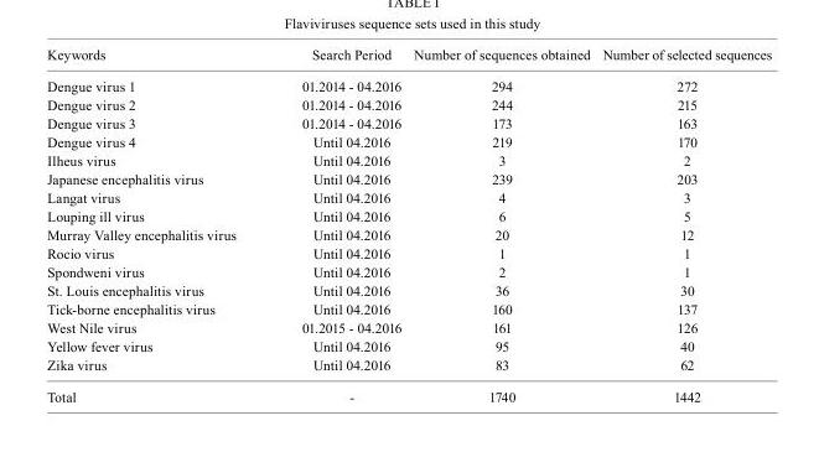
<table><thead><tr><td>Keywords</td><td>Search Period</td><td>Number of sequences obtained</td><td>Number of selected sequences</td></tr></thead><tbody><tr><td>Dengue virus 1</td><td>01.2014 - 04.2016</td><td>294</td><td>272</td></tr><tr><td>Dengue virus 2</td><td>01.2014 - 04.2016</td><td>244</td><td>215</td></tr><tr><td>Dengue virus 3</td><td>01.2014 - 04.2016</td><td>173</td><td>163</td></tr><tr><td>Dengue virus 4</td><td>Until 04.2016</td><td>219</td><td>170</td></tr><tr><td>Ilheus virus</td><td>Until 04.2016</td><td>3</td><td>2</td></tr><tr><td>Japanese encephalitis virus</td><td>Until 04.2016</td><td>239</td><td>203</td></tr><tr><td>Langat virus</td><td>Until 04.2016</td><td>4</td><td>3</td></tr><tr><td>Louping ill virus</td><td>Until 04.2016</td><td>6</td><td>5</td></tr><tr><td>Murray Valley encephalitis virus</td><td>Until 04.2016</td><td>20</td><td>12</td></tr><tr><td>Rocio virus</td><td>Until 04.2016</td><td>1</td><td>1</td></tr><tr><td>Spondweni virus</td><td>Until 04.2016</td><td>2</td><td>1</td></tr><tr><td>St. Louis encephalitis virus</td><td>Until 04.2016</td><td>36</td><td>30</td></tr><tr><td>Tick-borne encephalitis virus</td><td>Until 04.2016</td><td>160</td><td>137</td></tr><tr><td>West Nile virus</td><td>01.2015 - 04.2016</td><td>161</td><td>126</td></tr><tr><td>Yellow fever virus</td><td>Until 04.2016</td><td>95</td><td>40</td></tr><tr><td>Zika virus</td><td>Until 04.2016</td><td>83</td><td>62</td></tr><tr><td>Total</td><td>-</td><td>1740</td><td>1442</td></tr></tbody></table>